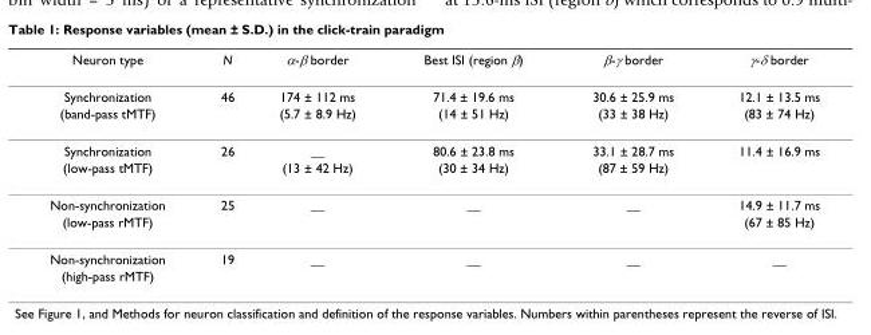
<table><thead><tr><td>Neuron type</td><td>N</td><td>α-β border</td><td>Best ISI (region β)</td><td>β-γ border</td><td>γ-δ border</td></tr></thead><tbody><tr><td>Synchronization</td><td>46</td><td>174 ± 112 ms</td><td>71.4 ± 19.6 ms</td><td>30.6 ± 25.9 ms</td><td>12.1 ± 13.5 ms</td></tr><tr><td>(band-pass tMTF)</td><td></td><td>(5.7 ± 8.9 Hz)</td><td>(14 ± 51 Hz)</td><td>(33 ± 38 Hz)</td><td>(83 ± 74 Hz)</td></tr><tr><td>Synchronization</td><td>26</td><td>__</td><td>80.6 ± 23.8 ms</td><td>33.1 ± 28.7 ms</td><td>11.4 ± 16.9 ms</td></tr><tr><td>(low-pass tMTF)</td><td></td><td>(13 ± 42 Hz)</td><td>(30 ± 34 Hz)</td><td>(87 ± 59 Hz)</td><td></td></tr><tr><td>Non-synchronization</td><td>25</td><td>__</td><td>__</td><td>__</td><td>14.9 ± 11.7 ms</td></tr><tr><td>(low-pass rMTF)</td><td></td><td></td><td></td><td></td><td>(67 ± 85 Hz)</td></tr><tr><td>Non-synchronization</td><td>19</td><td>__</td><td>__</td><td>__</td><td>__</td></tr><tr><td>(high-pass rMTF)</td><td></td><td></td><td></td><td></td><td></td></tr></tbody></table>